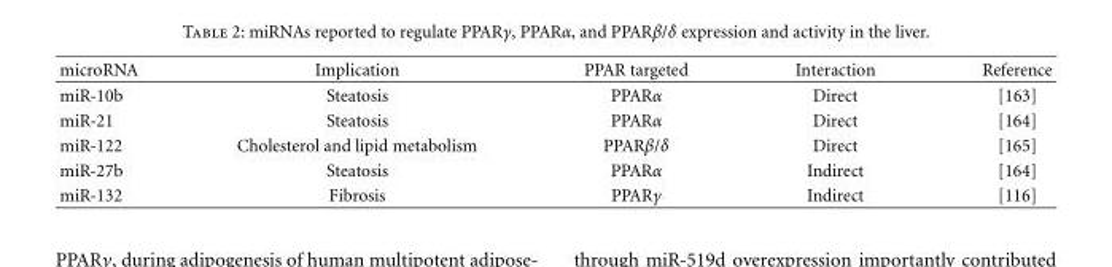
<table><thead><tr><td>microRNA</td><td>Implication</td><td>PPAR targeted</td><td>Interaction</td><td>Reference</td></tr></thead><tbody><tr><td>miR-10b</td><td>Steatosis</td><td>PPARα</td><td>Direct</td><td>[163]</td></tr><tr><td>miR-21</td><td>Steatosis</td><td>PPARα</td><td>Direct</td><td>[164]</td></tr><tr><td>miR-122</td><td>Cholesterol and lipid metabolism</td><td>PPARβ/δ</td><td>Direct</td><td>[165]</td></tr><tr><td>miR-27b</td><td>Steatosis</td><td>PPARα</td><td>Indirect</td><td>[164]</td></tr><tr><td>miR-132</td><td>Fibrosis</td><td>PPARγ</td><td>Indirect</td><td>[116]</td></tr></tbody></table>